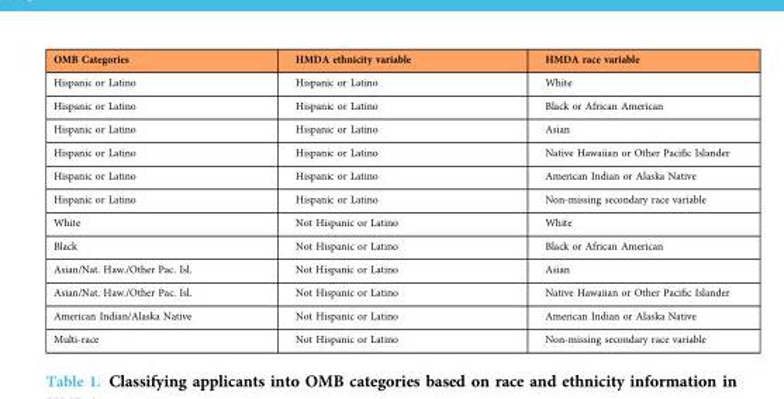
<table><thead><tr><td>OMB Categories</td><td>HMDA ethnicity variable</td><td>HMDA race variable</td></tr></thead><tbody><tr><td>Hispanic or Latino</td><td>Hispanic or Latino</td><td>White</td></tr><tr><td>Hispanic or Latino</td><td>Hispanic or Latino</td><td>Black or African American</td></tr><tr><td>Hispanic or Latino</td><td>Hispanic or Latino</td><td>Asian</td></tr><tr><td>Hispanic or Latino</td><td>Hispanic or Latino</td><td>Native Hawaiian or Other Pacific Islander</td></tr><tr><td>Hispanic or Latino</td><td>Hispanic or Latino</td><td>American Indian or Alaska Native</td></tr><tr><td>Hispanic or Latino</td><td>Hispanic or Latino</td><td>Non-missing secondary race variable</td></tr><tr><td>White</td><td>Not Hispanic or Latino</td><td>White</td></tr><tr><td>Black</td><td>Not Hispanic or Latino</td><td>Black or African American</td></tr><tr><td>Asian/Nat. Haw./Other Pac. Isl.</td><td>Not Hispanic or Latino</td><td>Asian</td></tr><tr><td>Asian/Nat. Haw./Other Pac. Isl.</td><td>Not Hispanic or Latino</td><td>Native Hawaiian or Other Pacific Islander</td></tr><tr><td>American Indian/Alaska Native</td><td>Not Hispanic or Latino</td><td>American Indian or Alaska Native</td></tr><tr><td>Multi-race</td><td>Not Hispanic or Latino</td><td>Non-missing secondary race variable</td></tr></tbody></table>